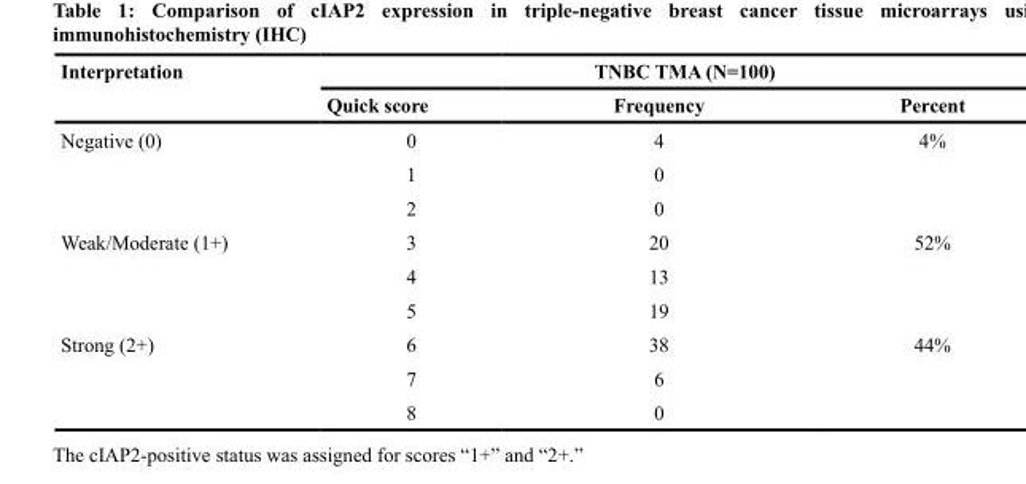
<table><thead><tr><td rowspan="2">Interpretation</td><td colspan="3">TNBC TMA (N=100)</td></tr><tr><td>Quick score</td><td>Frequency</td><td>Percent</td></tr></thead><tbody><tr><td rowspan="3">Negative (0)</td><td>0</td><td>4</td><td rowspan="3">4%</td></tr><tr><td>1</td><td>0</td></tr><tr><td>2</td><td>0</td></tr><tr><td rowspan="3">Weak/Moderate (1+)</td><td>3</td><td>20</td><td rowspan="3">52%</td></tr><tr><td>4</td><td>13</td></tr><tr><td>5</td><td>19</td></tr><tr><td rowspan="3">Strong (2+)</td><td>6</td><td>38</td><td rowspan="3">44%</td></tr><tr><td>7</td><td>6</td></tr><tr><td>8</td><td>0</td></tr></tbody></table>